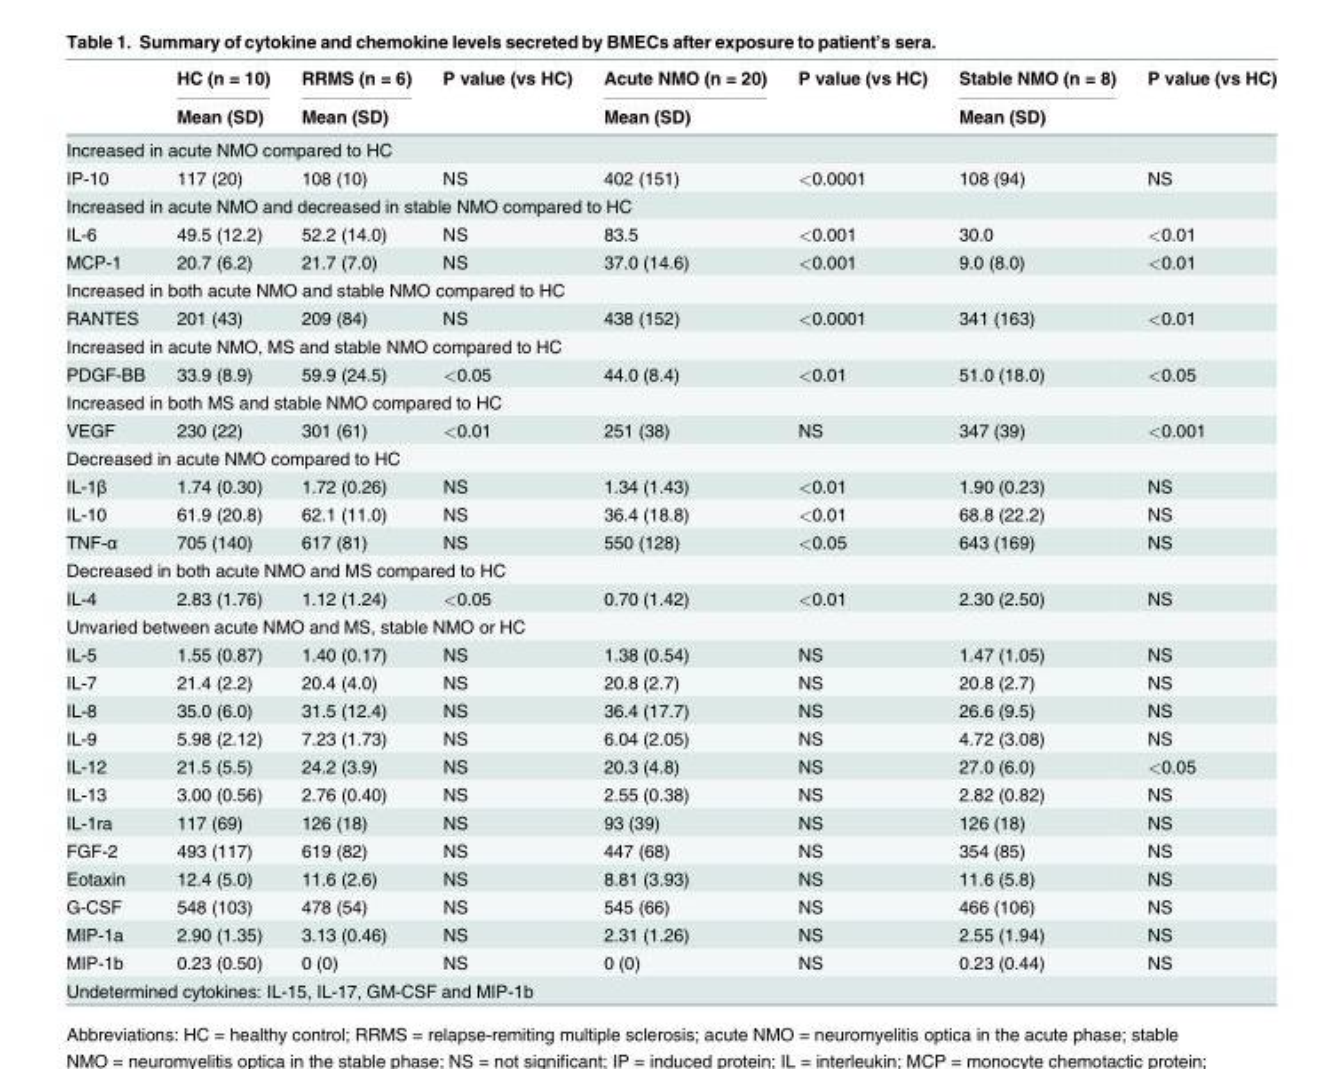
<table><thead><tr><td rowspan="2"></td><td rowspan="2">HC (n = 10) Mean (SD)</td><td rowspan="2">RRMS (n = 6) Mean (SD)</td><td rowspan="2">P value (vs HC)</td><td rowspan="2">Acute NMO (n = 20) Mean (SD)</td><td rowspan="2">P value (vs HC)</td><td rowspan="2">Stable NMO (n = 8) Mean (SD)</td><td rowspan="2">P value (vs HC)</td></tr><tr></tr></thead><tbody><tr><td colspan="8">Increased in acute NMO compared to HC</td></tr><tr><td>IP-10</td><td>117 (20)</td><td>108 (10)</td><td>NS</td><td>402 (151)</td><td>&lt;0.0001</td><td>108 (94)</td><td>NS</td></tr><tr><td colspan="8">Increased in acute NMO and decreased in stable NMO compared to HC</td></tr><tr><td>IL-6</td><td>49.5 (12.2)</td><td>52.2 (14.0)</td><td>NS</td><td>83.5</td><td>&lt;0.001</td><td>30.0</td><td>&lt;0.01</td></tr><tr><td>MCP-1</td><td>20.7 (6.2)</td><td>21.7 (7.0)</td><td>NS</td><td>37.0 (14.6)</td><td>&lt;0.001</td><td>9.0 (8.0)</td><td>&lt;0.01</td></tr><tr><td colspan="8">Increased in both acute NMO and stable NMO compared to HC</td></tr><tr><td>RANTES</td><td>201 (43)</td><td>209 (84)</td><td>NS</td><td>438 (152)</td><td>&lt;0.0001</td><td>341 (163)</td><td>&lt;0.01</td></tr><tr><td colspan="8">Increased in acute NMO, MS and stable NMO compared to HC</td></tr><tr><td>PDGF-BB</td><td>33.9 (8.9)</td><td>59.9 (24.5)</td><td>&lt;0.05</td><td>44.0 (8.4)</td><td>&lt;0.01</td><td>51.0 (18.0)</td><td>&lt;0.05</td></tr><tr><td colspan="8">Increased in both MS and stable NMO compared to HC</td></tr><tr><td>VEGF</td><td>230 (22)</td><td>301 (61)</td><td>&lt;0.01</td><td>251 (38)</td><td>NS</td><td>347 (39)</td><td>&lt;0.001</td></tr><tr><td colspan="8">Decreased in acute NMO compared to HC</td></tr><tr><td>IL-1β</td><td>1.74 (0.30)</td><td>1.72 (0.26)</td><td>NS</td><td>1.34 (1.43)</td><td>&lt;0.01</td><td>1.90 (0.23)</td><td>NS</td></tr><tr><td>IL-10</td><td>61.9 (20.8)</td><td>62.1 (11.0)</td><td>NS</td><td>36.4 (18.8)</td><td>&lt;0.01</td><td>68.8 (22.2)</td><td>NS</td></tr><tr><td>TNF-α</td><td>705 (140)</td><td>617 (81)</td><td>NS</td><td>550 (128)</td><td>&lt;0.05</td><td>643 (169)</td><td>NS</td></tr><tr><td colspan="8">Decreased in both acute NMO and MS compared to HC</td></tr><tr><td>IL-4</td><td>2.83 (1.76)</td><td>1.12 (1.24)</td><td>&lt;0.05</td><td>0.70 (1.42)</td><td>&lt;0.01</td><td>2.30 (2.50)</td><td>NS</td></tr><tr><td colspan="8">Unvaried between acute NMO and MS, stable NMO or HC</td></tr><tr><td>IL-5</td><td>1.55 (0.87)</td><td>1.40 (0.17)</td><td>NS</td><td>1.38 (0.54)</td><td>NS</td><td>1.47 (1.05)</td><td>NS</td></tr><tr><td>IL-7</td><td>21.4 (2.2)</td><td>20.4 (4.0)</td><td>NS</td><td>20.8 (2.7)</td><td>NS</td><td>20.8 (2.7)</td><td>NS</td></tr><tr><td>IL-8</td><td>35.0 (6.0)</td><td>31.5 (12.4)</td><td>NS</td><td>36.4 (17.7)</td><td>NS</td><td>26.6 (9.5)</td><td>NS</td></tr><tr><td>IL-9</td><td>5.98 (2.12)</td><td>7.23 (1.73)</td><td>NS</td><td>6.04 (2.05)</td><td>NS</td><td>4.72 (3.08)</td><td>NS</td></tr><tr><td>IL-12</td><td>21.5 (5.5)</td><td>24.2 (3.9)</td><td>NS</td><td>20.3 (4.8)</td><td>NS</td><td>27.0 (6.0)</td><td>&lt;0.05</td></tr><tr><td>IL-13</td><td>3.00 (0.56)</td><td>2.76 (0.40)</td><td>NS</td><td>2.55 (0.38)</td><td>NS</td><td>2.82 (0.82)</td><td>NS</td></tr><tr><td>IL-1ra</td><td>117 (69)</td><td>126 (18)</td><td>NS</td><td>93 (39)</td><td>NS</td><td>126 (18)</td><td>NS</td></tr><tr><td>FGF-2</td><td>493 (117)</td><td>619 (82)</td><td>NS</td><td>447 (68)</td><td>NS</td><td>354 (85)</td><td>NS</td></tr><tr><td>Eotaxin</td><td>12.4 (5.0)</td><td>11.6 (2.6)</td><td>NS</td><td>8.81 (3.93)</td><td>NS</td><td>11.6 (5.8)</td><td>NS</td></tr><tr><td>G-CSF</td><td>548 (103)</td><td>478 (54)</td><td>NS</td><td>545 (66)</td><td>NS</td><td>466 (106)</td><td>NS</td></tr><tr><td>MIP-1a</td><td>2.90 (1.35)</td><td>3.13 (0.46)</td><td>NS</td><td>2.31 (1.26)</td><td>NS</td><td>2.55 (1.94)</td><td>NS</td></tr><tr><td>MIP-1b</td><td>0.23 (0.50)</td><td>0 (0)</td><td>NS</td><td>0 (0)</td><td>NS</td><td>0.23 (0.44)</td><td>NS</td></tr><tr><td colspan="8">Undetermined cytokines: IL-15, IL-17, GM-CSF and MIP-1b</td></tr></tbody></table>